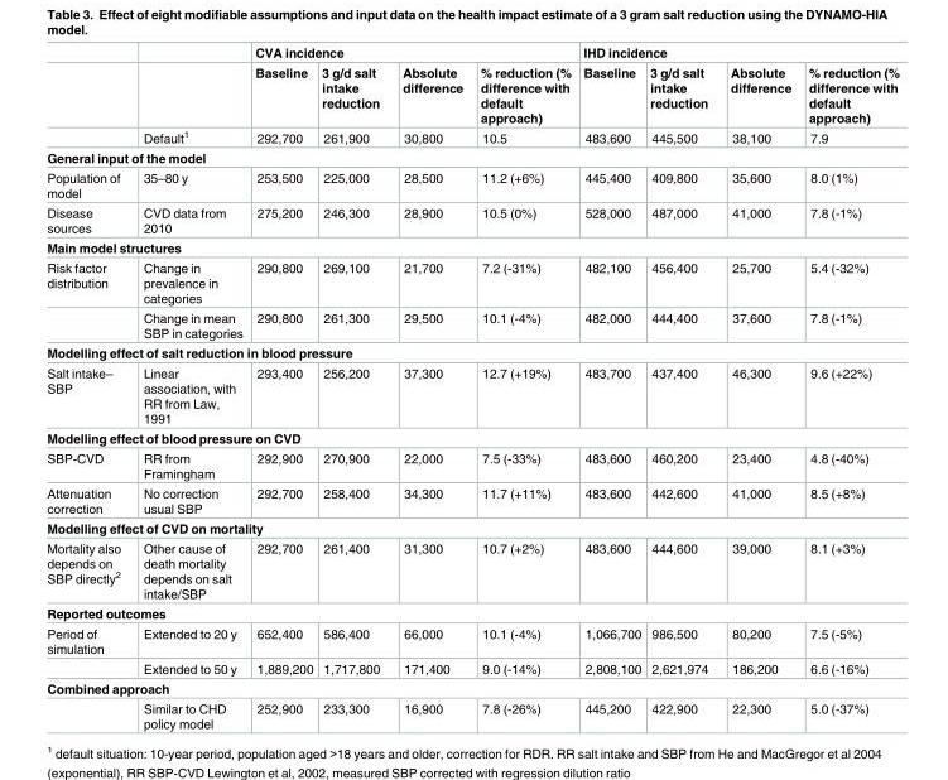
<table><thead><tr><td rowspan="2"></td><td rowspan="2"></td><td colspan="4">CVA incidence</td><td colspan="4">IHD incidence</td></tr><tr><td>Baseline</td><td>3 g/d salt intake reduction</td><td>Absolute difference</td><td>% reduction (% difference with default approach)</td><td>Baseline</td><td>3 g/d salt intake reduction</td><td>Absolute difference</td><td>% reduction (% difference with default approach)</td></tr></thead><tbody><tr><td></td><td>Default<sup>1</sup></td><td>292,700</td><td>261,900</td><td>30,800</td><td>10.5</td><td>483,600</td><td>445,500</td><td>38,100</td><td>7.9</td></tr><tr><td colspan="10">General input of the model</td></tr><tr><td>Population of model</td><td>35–80 y</td><td>253,500</td><td>225,000</td><td>28,500</td><td>11.2 (+6%)</td><td>445,400</td><td>409,800</td><td>35,600</td><td>8.0 (1%)</td></tr><tr><td>Disease sources</td><td>CVD data from 2010</td><td>275,200</td><td>246,300</td><td>28,900</td><td>10.5 (0%)</td><td>528,000</td><td>487,000</td><td>41,000</td><td>7.8 (-1%)</td></tr><tr><td colspan="10">Main model structures</td></tr><tr><td rowspan="2">Risk factor distribution</td><td>Change in prevalence in categories</td><td>290,800</td><td>269,100</td><td>21,700</td><td>7.2 (-31%)</td><td>482,100</td><td>456,400</td><td>25,700</td><td>5.4 (-32%)</td></tr><tr><td>Change in mean SBP in categories</td><td>290,800</td><td>261,300</td><td>29,500</td><td>10.1 (-4%)</td><td>482,000</td><td>444,400</td><td>37,600</td><td>7.8 (-1%)</td></tr><tr><td colspan="10">Modelling effect of salt reduction in blood pressure</td></tr><tr><td>Salt intake– SBP</td><td>Linear association, with RR from Law, 1991</td><td>293,400</td><td>256,200</td><td>37,300</td><td>12.7 (+19%)</td><td>483,700</td><td>437,400</td><td>46,300</td><td>9.6 (+22%)</td></tr><tr><td colspan="10">Modelling effect of blood pressure on CVD</td></tr><tr><td>SBP-CVD</td><td>RR from Framingham</td><td>292,900</td><td>270,900</td><td>22,000</td><td>7.5 (-33%)</td><td>483,600</td><td>460,200</td><td>23,400</td><td>4.8 (-40%)</td></tr><tr><td>Attenuation correction</td><td>No correction usual SBP</td><td>292,700</td><td>258,400</td><td>34,300</td><td>11.7 (+11%)</td><td>483,600</td><td>442,600</td><td>41,000</td><td>8.5 (+8%)</td></tr><tr><td colspan="10">Modelling effect of CVD on mortality</td></tr><tr><td>Mortality also depends on SBP directly<sup>2</sup></td><td>Other cause of death mortality depends on salt intake/SBP</td><td>292,700</td><td>261,400</td><td>31,300</td><td>10.7 (+2%)</td><td>483,600</td><td>444,600</td><td>39,000</td><td>8.1 (+3%)</td></tr><tr><td colspan="10">Reported outcomes</td></tr><tr><td rowspan="2">Period of simulation</td><td>Extended to 20 y</td><td>652,400</td><td>586,400</td><td>66,000</td><td>10.1 (-4%)</td><td>1,066,700</td><td>986,500</td><td>80,200</td><td>7.5 (-5%)</td></tr><tr><td>Extended to 50 y</td><td>1,889,200</td><td>1,717,800</td><td>171,400</td><td>9.0 (-14%)</td><td>2,808,100</td><td>2,621,974</td><td>186,200</td><td>6.6 (-16%)</td></tr><tr><td colspan="10">Combined approach</td></tr><tr><td></td><td>Similar to CHD policy model</td><td>252,900</td><td>233,300</td><td>16,900</td><td>7.8 (-26%)</td><td>445,200</td><td>422,900</td><td>22,300</td><td>5.0 (-37%)</td></tr></tbody></table>